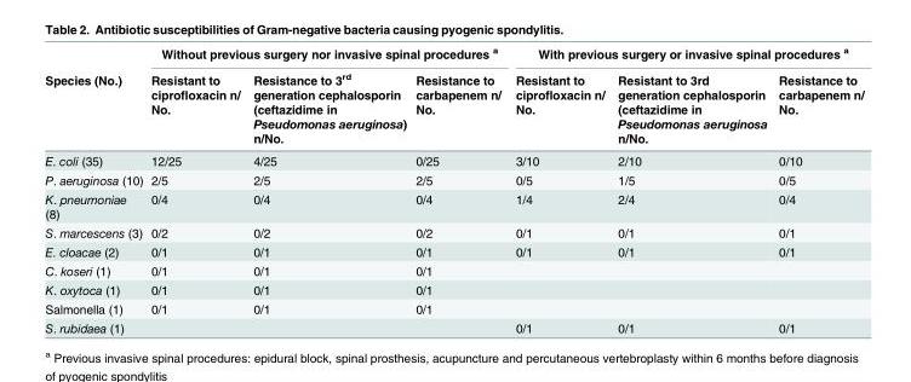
<table><thead><tr><td rowspan="2">Species (No.)</td><td colspan="3">Without previous surgery nor invasive spinal procedures <sup>a</sup></td><td colspan="3">With previous surgery or invasive spinal procedures <sup>a</sup></td></tr><tr><td>Resistant to ciprofloxacin n/ No.</td><td>Resistance to 3<sup>rd</sup> generation cephalosporin (ceftazidime in Pseudomonas aeruginosa) n/No.</td><td>Resistance to carbapenem n/ No.</td><td>Resistant to ciprofloxacin n/ No.</td><td>Resistant to 3rd generation cephalosporin (ceftazidime in Pseudomonas aeruginosa n/No.</td><td>Resistance to carbapenem n/ No.</td></tr></thead><tbody><tr><td>E. coli (35)</td><td>12/25</td><td>4/25</td><td>0/25</td><td>3/10</td><td>2/10</td><td>0/10</td></tr><tr><td>P. aeruginosa (10)</td><td>2/5</td><td>2/5</td><td>2/5</td><td>0/5</td><td>1/5</td><td>0/5</td></tr><tr><td>K. pneumoniae (8)</td><td>0/4</td><td>0/4</td><td>0/4</td><td>1/4</td><td>2/4</td><td>0/4</td></tr><tr><td>S. marcescens (3)</td><td>0/2</td><td>0/2</td><td>0/2</td><td>0/1</td><td>0/1</td><td>0/1</td></tr><tr><td>E. cloacae (2)</td><td>0/1</td><td>0/1</td><td>0/1</td><td>0/1</td><td>0/1</td><td>0/1</td></tr><tr><td>C. koseri (1)</td><td>0/1</td><td>0/1</td><td>0/1</td><td></td><td></td><td></td></tr><tr><td>K. oxytoca (1)</td><td>0/1</td><td>0/1</td><td>0/1</td><td></td><td></td><td></td></tr><tr><td>Salmonella (1)</td><td>0/1</td><td>0/1</td><td>0/1</td><td></td><td></td><td></td></tr><tr><td>S. rubidaea (1)</td><td></td><td></td><td></td><td>0/1</td><td>0/1</td><td>0/1</td></tr></tbody></table>